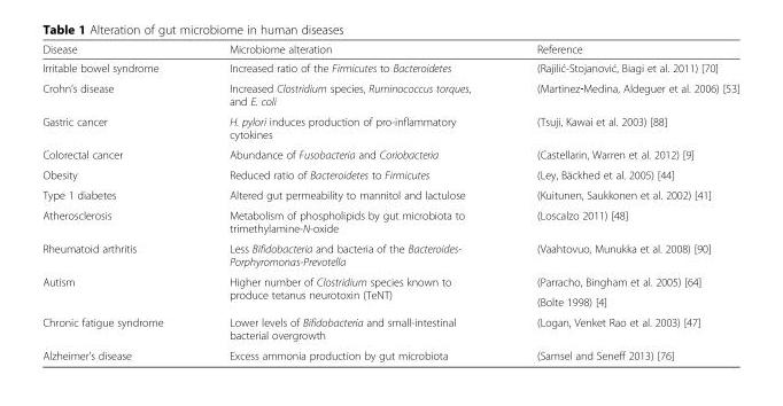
<table><thead><tr><td>Disease</td><td>Microbiome alteration</td><td>Reference</td></tr></thead><tbody><tr><td>Irritable bowel syndrome</td><td>Increased ratio of the Firmicutes to Bacteroidetes</td><td>(Rajilić-Stojanović, Biagi et al. 2011) [70]</td></tr><tr><td>Crohn’s disease</td><td>Increased Clostridium species, Ruminococcus torques, and E. coli</td><td>(Martinez‐Medina, Aldeguer et al. 2006) [53]</td></tr><tr><td>Gastric cancer</td><td>H. pylori induces production of pro-inflammatory cytokines</td><td>(Tsuji, Kawai et al. 2003) [88]</td></tr><tr><td>Colorectal cancer</td><td>Abundance of Fusobacteria and Coriobacteria</td><td>(Castellarin, Warren et al. 2012) [9]</td></tr><tr><td>Obesity</td><td>Reduced ratio of Bacteroidetes to Firmicutes</td><td>(Ley, Bäckhed et al. 2005) [44]</td></tr><tr><td>Type 1 diabetes</td><td>Altered gut permeability to mannitol and lactulose</td><td>(Kuitunen, Saukkonen et al. 2002) [41]</td></tr><tr><td>Atherosclerosis</td><td>Metabolism of phospholipids by gut microbiota to trimethylamine-N-oxide</td><td>(Loscalzo 2011) [48]</td></tr><tr><td>Rheumatoid arthritis</td><td>Less Bifidobacteria and bacteria of the Bacteroides- Porphyromonas-Prevotella</td><td>(Vaahtovuo, Munukka et al. 2008) [90]</td></tr><tr><td rowspan="2">Autism</td><td rowspan="2">Higher number of Clostridium species known to produce tetanus neurotoxin (TeNT)</td><td>(Parracho, Bingham et al. 2005) [64]</td></tr><tr><td>(Bolte 1998) [4]</td></tr><tr><td>Chronic fatigue syndrome</td><td>Lower levels of Bifidobacteria and small-intestinal bacterial overgrowth</td><td>(Logan, Venket Rao et al. 2003) [47]</td></tr><tr><td>Alzheimer’s disease</td><td>Excess ammonia production by gut microbiota</td><td>(Samsel and Seneff 2013) [76]</td></tr></tbody></table>